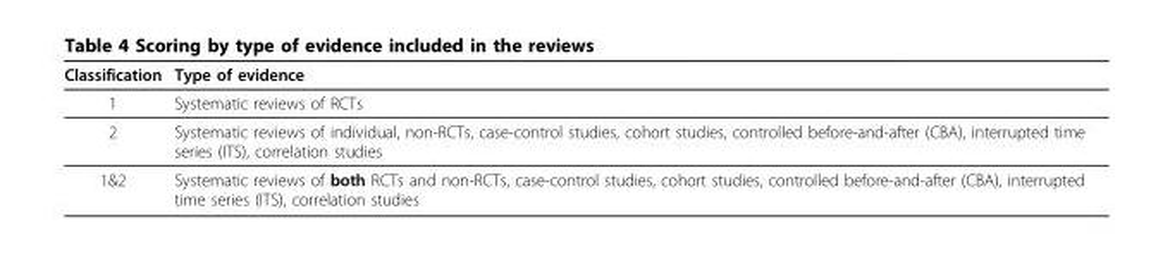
<table><thead><tr><td>Classification</td><td>Type of evidence</td></tr></thead><tbody><tr><td>1</td><td>Systematic reviews of RCTs</td></tr><tr><td>2</td><td>Systematic reviews of individual, non-RCTs, case-control studies, cohort studies, controlled before-and-after (CBA), interrupted time series (ITS), correlation studies</td></tr><tr><td>1&amp;2</td><td>Systematic reviews of both RCTs and non-RCTs, case-control studies, cohort studies, controlled before-and-after (CBA), interrupted time series (ITS), correlation studies</td></tr></tbody></table>